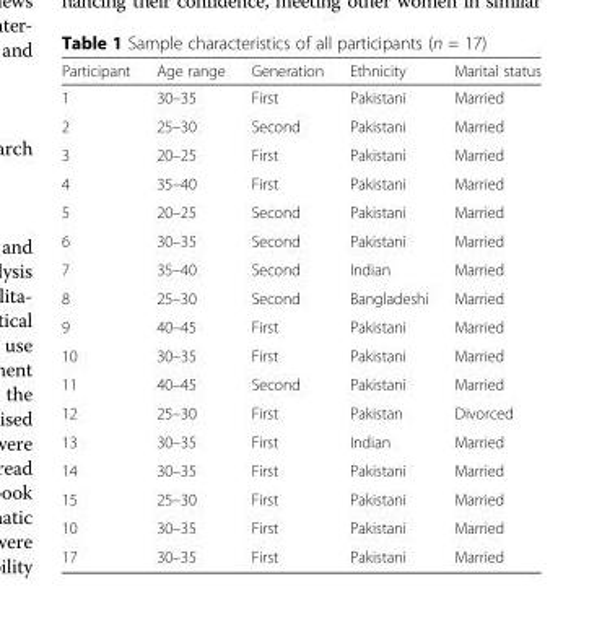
<table><thead><tr><td>Participant</td><td>Age range</td><td>Generation</td><td>Ethnicity</td><td>Marital status</td></tr></thead><tbody><tr><td>1</td><td>30–35</td><td>First</td><td>Pakistani</td><td>Married</td></tr><tr><td>2</td><td>25–30</td><td>Second</td><td>Pakistani</td><td>Married</td></tr><tr><td>3</td><td>20–25</td><td>First</td><td>Pakistani</td><td>Married</td></tr><tr><td>4</td><td>35–40</td><td>First</td><td>Pakistani</td><td>Married</td></tr><tr><td>5</td><td>20–25</td><td>Second</td><td>Pakistani</td><td>Married</td></tr><tr><td>6</td><td>30–35</td><td>Second</td><td>Pakistani</td><td>Married</td></tr><tr><td>7</td><td>35–40</td><td>Second</td><td>Indian</td><td>Married</td></tr><tr><td>8</td><td>25–30</td><td>Second</td><td>Bangladeshi</td><td>Married</td></tr><tr><td>9</td><td>40–45</td><td>First</td><td>Pakistani</td><td>Married</td></tr><tr><td>10</td><td>30–35</td><td>First</td><td>Pakistani</td><td>Married</td></tr><tr><td>11</td><td>40–45</td><td>Second</td><td>Pakistani</td><td>Married</td></tr><tr><td>12</td><td>25–30</td><td>First</td><td>Pakistan</td><td>Divorced</td></tr><tr><td>13</td><td>30–35</td><td>First</td><td>Indian</td><td>Married</td></tr><tr><td>14</td><td>30–35</td><td>First</td><td>Pakistani</td><td>Married</td></tr><tr><td>15</td><td>25–30</td><td>First</td><td>Pakistani</td><td>Married</td></tr><tr><td>10</td><td>30–35</td><td>First</td><td>Pakistani</td><td>Married</td></tr><tr><td>17</td><td>30–35</td><td>First</td><td>Pakistani</td><td>Married</td></tr></tbody></table>